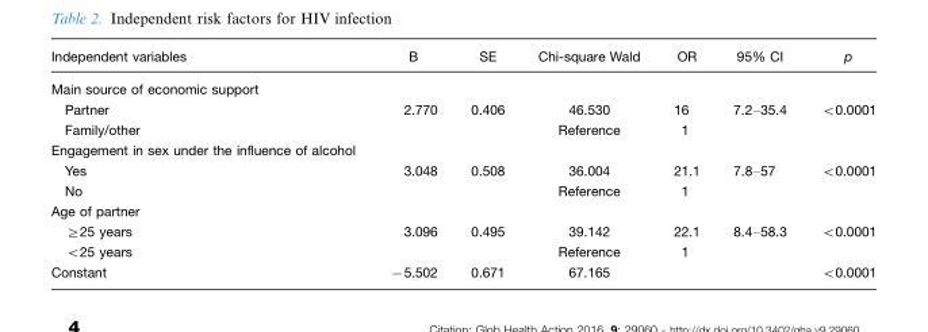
<table><thead><tr><td>Independent variables</td><td>B</td><td>SE</td><td>Chi-square Wald</td><td>OR</td><td>95% CI</td><td>p</td></tr></thead><tbody><tr><td colspan="7">Main source of economic support</td></tr><tr><td>Partner</td><td>2.770</td><td>0.406</td><td>46.530</td><td>16</td><td>7.2–35.4</td><td>&lt;0.0001</td></tr><tr><td>Family/other</td><td></td><td></td><td>Reference</td><td>1</td><td></td><td></td></tr><tr><td colspan="7">Engagement in sex under the influence of alcohol</td></tr><tr><td>Yes</td><td>3.048</td><td>0.508</td><td>36.004</td><td>21.1</td><td>7.8–57</td><td>&lt;0.0001</td></tr><tr><td>No</td><td></td><td></td><td>Reference</td><td>1</td><td></td><td></td></tr><tr><td colspan="7">Age of partner</td></tr><tr><td>≥25 years</td><td>3.096</td><td>0.495</td><td>39.142</td><td>22.1</td><td>8.4–58.3</td><td>&lt;0.0001</td></tr><tr><td>&lt;25 years</td><td></td><td></td><td>Reference</td><td>1</td><td></td><td></td></tr><tr><td>Constant</td><td>−5.502</td><td>0.671</td><td>67.165</td><td></td><td></td><td>&lt;0.0001</td></tr></tbody></table>